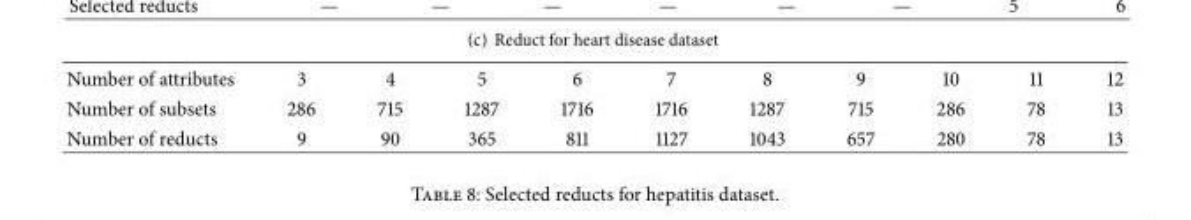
<table><tbody><tr><td>Number of attributes</td><td>3</td><td>4</td><td>5</td><td>6</td><td>7</td><td>8</td><td>9</td><td>10</td><td>11</td><td>12</td></tr><tr><td>Number of subsets</td><td>286</td><td>715</td><td>1287</td><td>1716</td><td>1716</td><td>1287</td><td>715</td><td>286</td><td>78</td><td>13</td></tr><tr><td>Number of reducts</td><td>9</td><td>90</td><td>365</td><td>811</td><td>1127</td><td>1043</td><td>657</td><td>280</td><td>78</td><td>13</td></tr></tbody></table>